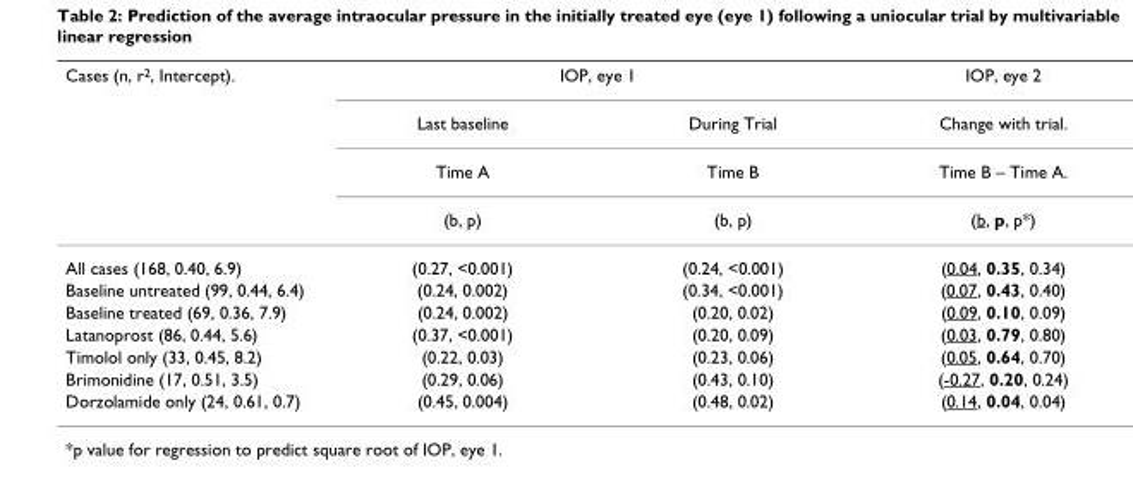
<table><thead><tr><td rowspan="4">Cases (n, r<sup>2</sup>, Intercept).</td><td colspan="2">IOP, eye 1</td><td rowspan="4">IOP, eye 2 Change with trial. Time B – Time A. (b, p, p*)</td></tr><tr><td rowspan="3">Last baseline Time A (b, p)</td><td rowspan="3">During Trial Time B (b, p)</td></tr><tr></tr><tr></tr></thead><tbody><tr><td>All cases (168, 0.40, 6.9)</td><td>(0.27, &lt;0.001)</td><td>(0.24, &lt;0.001)</td><td>(0.04, 0.35, 0.34)</td></tr><tr><td>Baseline untreated (99, 0.44, 6.4)</td><td>(0.24, 0.002)</td><td>(0.34, &lt;0.001)</td><td>(0.07, 0.43, 0.40)</td></tr><tr><td>Baseline treated (69, 0.36, 7.9)</td><td>(0.24, 0.002)</td><td>(0.20, 0.02)</td><td>(0.09, 0.10, 0.09)</td></tr><tr><td>Latanoprost (86, 0.44, 5.6)</td><td>(0.37, &lt;0.001)</td><td>(0.20, 0.09)</td><td>(0.03, 0.79, 0.80)</td></tr><tr><td>Timolol only (33, 0.45, 8.2)</td><td>(0.22, 0.03)</td><td>(0.23, 0.06)</td><td>(0.05, 0.64, 0.70)</td></tr><tr><td>Brimonidine (17, 0.51, 3.5)</td><td>(0.29, 0.06)</td><td>(0.43, 0.10)</td><td>(-0.27, 0.20, 0.24)</td></tr><tr><td>Dorzolamide only (24, 0.61, 0.7)</td><td>(0.45, 0.004)</td><td>(0.48, 0.02)</td><td>(0.14, 0.04, 0.04)</td></tr></tbody></table>